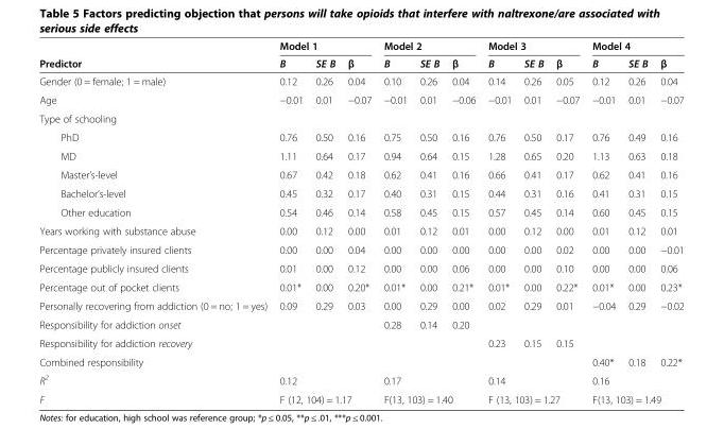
<table><thead><tr><td rowspan="2">Predictor</td><td colspan="3">Model 1</td><td colspan="3">Model 2</td><td colspan="3">Model 3</td><td colspan="3">Model 4</td></tr><tr><td>B</td><td>SE B</td><td>β</td><td>B</td><td>SE B</td><td>β</td><td>B</td><td>SE B</td><td>β</td><td>B</td><td>SE B</td><td>β</td></tr></thead><tbody><tr><td>Gender (0 = female; 1 = male)</td><td>0.12</td><td>0.26</td><td>0.04</td><td>0.10</td><td>0.26</td><td>0.04</td><td>0.14</td><td>0.26</td><td>0.05</td><td>0.12</td><td>0.26</td><td>0.04</td></tr><tr><td>Age</td><td>−0.01</td><td>0.01</td><td>−0.07</td><td>−0.01</td><td>0.01</td><td>−0.06</td><td>−0.01</td><td>0.01</td><td>−0.07</td><td>−0.01</td><td>0.01</td><td>−0.07</td></tr><tr><td colspan="13">Type of schooling</td></tr><tr><td>PhD</td><td>0.76</td><td>0.50</td><td>0.16</td><td>0.75</td><td>0.50</td><td>0.16</td><td>0.76</td><td>0.50</td><td>0.17</td><td>0.76</td><td>0.49</td><td>0.16</td></tr><tr><td>MD</td><td>1.11</td><td>0.64</td><td>0.17</td><td>0.94</td><td>0.64</td><td>0.15</td><td>1.28</td><td>0.65</td><td>0.20</td><td>1.13</td><td>0.63</td><td>0.18</td></tr><tr><td>Master’s-level</td><td>0.67</td><td>0.42</td><td>0.18</td><td>0.62</td><td>0.41</td><td>0.16</td><td>0.66</td><td>0.41</td><td>0.17</td><td>0.62</td><td>0.41</td><td>0.16</td></tr><tr><td>Bachelor’s-level</td><td>0.45</td><td>0.32</td><td>0.17</td><td>0.40</td><td>0.31</td><td>0.15</td><td>0.44</td><td>0.31</td><td>0.16</td><td>0.41</td><td>0.31</td><td>0.15</td></tr><tr><td>Other education</td><td>0.54</td><td>0.46</td><td>0.14</td><td>0.58</td><td>0.45</td><td>0.15</td><td>0.57</td><td>0.45</td><td>0.14</td><td>0.60</td><td>0.45</td><td>0.15</td></tr><tr><td>Years working with substance abuse</td><td>0.00</td><td>0.12</td><td>0.00</td><td>0.01</td><td>0.12</td><td>0.01</td><td>0.00</td><td>0.12</td><td>0.00</td><td>0.01</td><td>0.12</td><td>0.01</td></tr><tr><td>Percentage privately insured clients</td><td>0.00</td><td>0.00</td><td>0.04</td><td>0.00</td><td>0.00</td><td>0.00</td><td>0.00</td><td>0.00</td><td>0.02</td><td>0.00</td><td>0.00</td><td>−0.01</td></tr><tr><td>Percentage publicly insured clients</td><td>0.01</td><td>0.00</td><td>0.12</td><td>0.00</td><td>0.00</td><td>0.06</td><td>0.00</td><td>0.00</td><td>0.10</td><td>0.00</td><td>0.00</td><td>0.06</td></tr><tr><td>Percentage out of pocket clients</td><td>0.01*</td><td>0.00</td><td>0.20*</td><td>0.01*</td><td>0.00</td><td>0.21*</td><td>0.01*</td><td>0.00</td><td>0.22*</td><td>0.01*</td><td>0.00</td><td>0.23*</td></tr><tr><td>Personally recovering from addiction (0 = no; 1 = yes)</td><td>0.09</td><td>0.29</td><td>0.03</td><td>0.00</td><td>0.29</td><td>0.00</td><td>0.02</td><td>0.29</td><td>0.01</td><td>−0.04</td><td>0.29</td><td>−0.02</td></tr><tr><td>Responsibility for addiction onset</td><td></td><td></td><td></td><td>0.28</td><td>0.14</td><td>0.20</td><td></td><td></td><td></td><td></td><td></td><td></td></tr><tr><td>Responsibility for addiction recovery</td><td></td><td></td><td></td><td></td><td></td><td></td><td>0.23</td><td>0.15</td><td>0.15</td><td></td><td></td><td></td></tr><tr><td>Combined responsibility</td><td></td><td></td><td></td><td></td><td colspan="3"></td><td colspan="2"></td><td>0.40*</td><td>0.18</td><td>0.22*</td></tr><tr><td>R<sup>2</sup></td><td colspan="3">0.12</td><td colspan="3">0.17</td><td colspan="3">0.14</td><td colspan="3">0.16</td></tr><tr><td>F</td><td colspan="3">F (12, 104) = 1.17</td><td colspan="3">F(13, 103) = 1.40</td><td colspan="3">F (13, 103) = 1.27</td><td colspan="3">F(13, 103) = 1.49</td></tr></tbody></table>